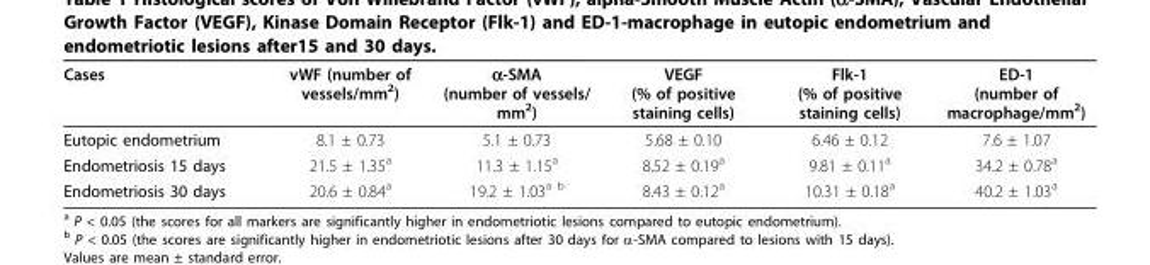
<table><thead><tr><td>Cases</td><td>vWF (number of vessels/mm<sup>2</sup>)</td><td>α-SMA (number of vessels/ mm<sup>2</sup>)</td><td>VEGF (% of positive staining cells)</td><td>Flk-1 (% of positive staining cells)</td><td>ED-1 (number of macrophage/mm<sup>2</sup>)</td></tr></thead><tbody><tr><td>Eutopic endometrium</td><td>8.1 ± 0.73</td><td>5.1 ± 0.73</td><td>5.68 ± 0.10</td><td>6.46 ± 0.12</td><td>7.6 ± 1.07</td></tr><tr><td>Endometriosis 15 days</td><td>21.5 ± 1.35<sup>a</sup></td><td>11.3 ± 1.15<sup>a</sup></td><td>8.52 ± 0.19<sup>a</sup></td><td>9.81 ± 0.11<sup>a</sup></td><td>34.2 ± 0.78<sup>a</sup></td></tr><tr><td>Endometriosis 30 days</td><td>20.6 ± 0.84<sup>a</sup></td><td>19.2 ± 1.03<sup>a b</sup></td><td>8.43 ± 0.12<sup>a</sup></td><td>10.31 ± 0.18<sup>a</sup></td><td>40.2 ± 1.03<sup>a</sup></td></tr></tbody></table>